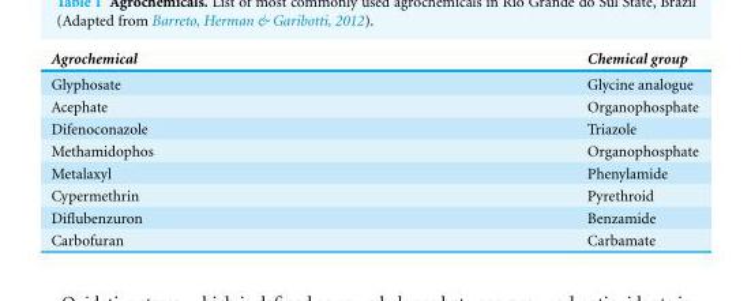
<table><thead><tr><td>Agrochemical</td><td>Chemical group</td></tr></thead><tbody><tr><td>Glyphosate</td><td>Glycine analogue</td></tr><tr><td>Acephate</td><td>Organophosphate</td></tr><tr><td>Difenoconazole</td><td>Triazole</td></tr><tr><td>Methamidophos</td><td>Organophosphate</td></tr><tr><td>Metalaxyl</td><td>Phenylamide</td></tr><tr><td>Cypermethrin</td><td>Pyrethroid</td></tr><tr><td>Diflubenzuron</td><td>Benzamide</td></tr><tr><td>Carbofuran</td><td>Carbamate</td></tr></tbody></table>